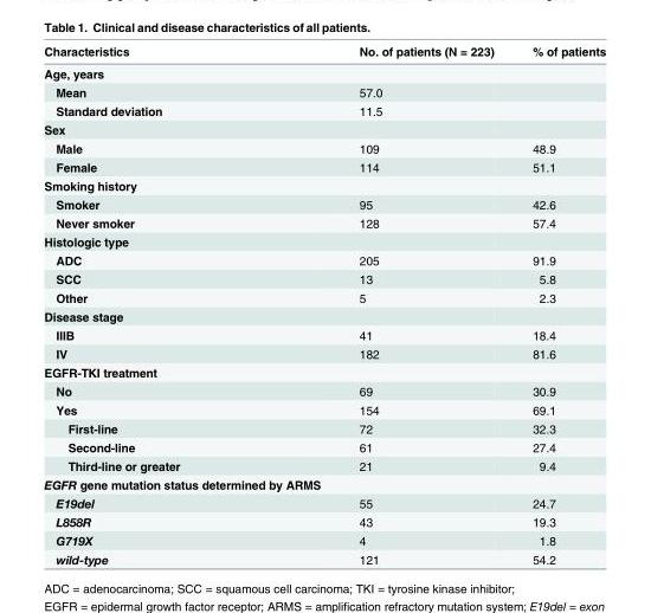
<table><thead><tr><td>Characteristics</td><td>No. of patients (N = 223)</td><td>% of patients</td></tr></thead><tbody><tr><td colspan="3">Age, years</td></tr><tr><td>Mean</td><td>57.0</td><td></td></tr><tr><td>Standard deviation</td><td>11.5</td><td></td></tr><tr><td colspan="3">Sex</td></tr><tr><td>Male</td><td>109</td><td>48.9</td></tr><tr><td>Female</td><td>114</td><td>51.1</td></tr><tr><td colspan="3">Smoking history</td></tr><tr><td>Smoker</td><td>95</td><td>42.6</td></tr><tr><td>Never smoker</td><td>128</td><td>57.4</td></tr><tr><td colspan="3">Histologic type</td></tr><tr><td>ADC</td><td>205</td><td>91.9</td></tr><tr><td>SCC</td><td>13</td><td>5.8</td></tr><tr><td>Other</td><td>5</td><td>2.3</td></tr><tr><td colspan="3">Disease stage</td></tr><tr><td>IIIB</td><td>41</td><td>18.4</td></tr><tr><td>IV</td><td>182</td><td>81.6</td></tr><tr><td colspan="3">EGFR-TKI treatment</td></tr><tr><td>No</td><td>69</td><td>30.9</td></tr><tr><td>Yes</td><td>154</td><td>69.1</td></tr><tr><td>First-line</td><td>72</td><td>32.3</td></tr><tr><td>Second-line</td><td>61</td><td>27.4</td></tr><tr><td>Third-line or greater</td><td>21</td><td>9.4</td></tr><tr><td colspan="3">EGFR gene mutation status determined by ARMS</td></tr><tr><td>E19del</td><td>55</td><td>24.7</td></tr><tr><td>L858R</td><td>43</td><td>19.3</td></tr><tr><td>G719X</td><td>4</td><td>1.8</td></tr><tr><td>wild-type</td><td>121</td><td>54.2</td></tr></tbody></table>